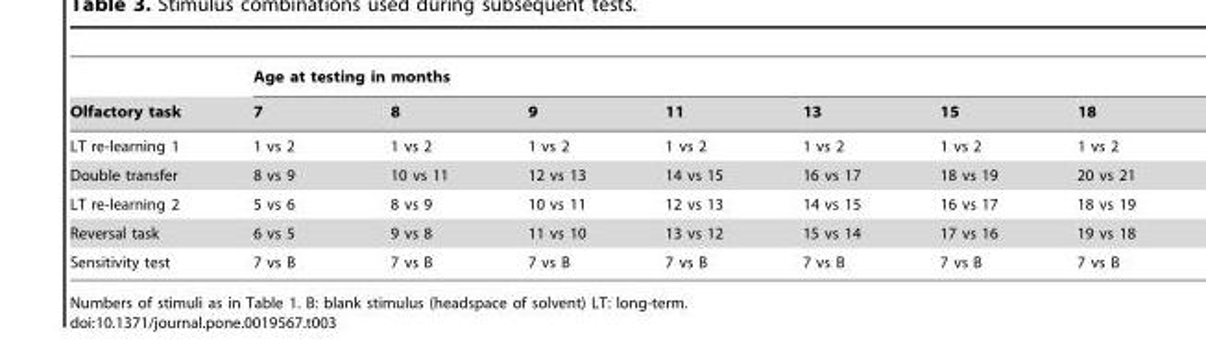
<table><thead><tr><td rowspan="2">Olfactory task</td><td colspan="7">Age at testing in months</td></tr><tr><td>7</td><td>8</td><td>9</td><td>11</td><td>13</td><td>15</td><td>18</td></tr></thead><tbody><tr><td>LT re-learning 1</td><td>1 vs 2</td><td>1 vs 2</td><td>1 vs 2</td><td>1 vs 2</td><td>1 vs 2</td><td>1 vs 2</td><td>1 vs 2</td></tr><tr><td>Double transfer</td><td>8 vs 9</td><td>10 vs 11</td><td>12 vs 13</td><td>14 vs 15</td><td>16 vs 17</td><td>18 vs 19</td><td>20 vs 21</td></tr><tr><td>LT re-learning 2</td><td>5 vs 6</td><td>8 vs 9</td><td>10 vs 11</td><td>12 vs 13</td><td>14 vs 15</td><td>16 vs 17</td><td>18 vs 19</td></tr><tr><td>Reversal task</td><td>6 vs 5</td><td>9 vs 8</td><td>11 vs 10</td><td>13 vs 12</td><td>15 vs 14</td><td>17 vs 16</td><td>19 vs 18</td></tr><tr><td>Sensitivity test</td><td>7 vs B</td><td>7 vs B</td><td>7 vs B</td><td>7 vs B</td><td>7 vs B</td><td>7 vs B</td><td>7 vs B</td></tr></tbody></table>